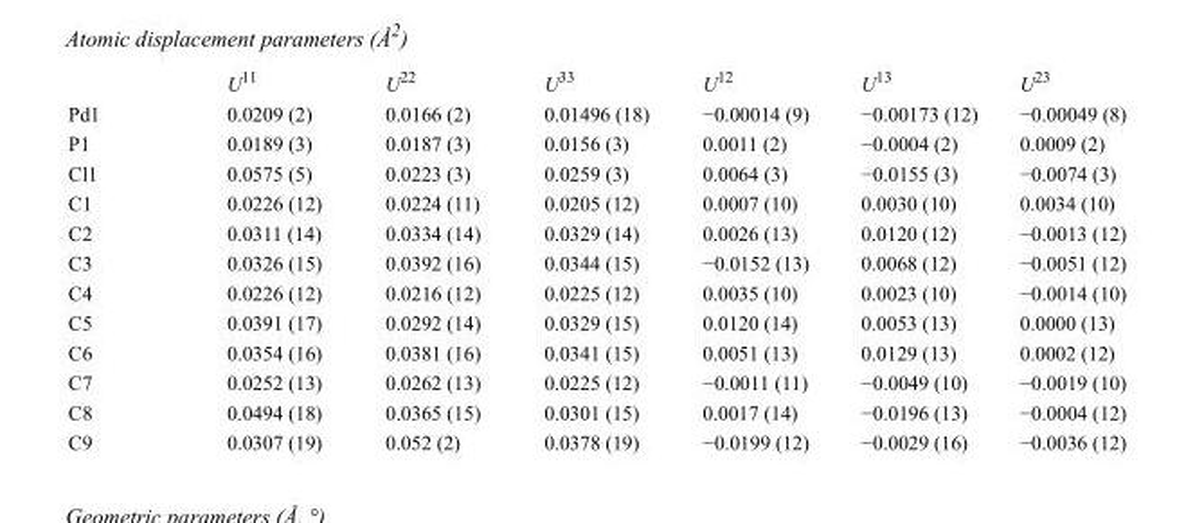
<table><thead><tr><td></td><td>U<sup>11</sup></td><td>U<sup>22</sup></td><td>U<sup>33</sup></td><td>U<sup>12</sup></td><td>U<sup>13</sup></td><td>U<sup>23</sup></td></tr></thead><tbody><tr><td>Pd1</td><td>0.0209 (2)</td><td>0.0166 (2)</td><td>0.01496 (18)</td><td>−0.00014 (9)</td><td>−0.00173 (12)</td><td>−0.00049 (8)</td></tr><tr><td>P1</td><td>0.0189 (3)</td><td>0.0187 (3)</td><td>0.0156 (3)</td><td>0.0011 (2)</td><td>−0.0004 (2)</td><td>0.0009 (2)</td></tr><tr><td>Cl1</td><td>0.0575 (5)</td><td>0.0223 (3)</td><td>0.0259 (3)</td><td>0.0064 (3)</td><td>−0.0155 (3)</td><td>−0.0074 (3)</td></tr><tr><td>C1</td><td>0.0226 (12)</td><td>0.0224 (11)</td><td>0.0205 (12)</td><td>0.0007 (10)</td><td>0.0030 (10)</td><td>0.0034 (10)</td></tr><tr><td>C2</td><td>0.0311 (14)</td><td>0.0334 (14)</td><td>0.0329 (14)</td><td>0.0026 (13)</td><td>0.0120 (12)</td><td>−0.0013 (12)</td></tr><tr><td>C3</td><td>0.0326 (15)</td><td>0.0392 (16)</td><td>0.0344 (15)</td><td>−0.0152 (13)</td><td>0.0068 (12)</td><td>−0.0051 (12)</td></tr><tr><td>C4</td><td>0.0226 (12)</td><td>0.0216 (12)</td><td>0.0225 (12)</td><td>0.0035 (10)</td><td>0.0023 (10)</td><td>−0.0014 (10)</td></tr><tr><td>C5</td><td>0.0391 (17)</td><td>0.0292 (14)</td><td>0.0329 (15)</td><td>0.0120 (14)</td><td>0.0053 (13)</td><td>0.0000 (13)</td></tr><tr><td>C6</td><td>0.0354 (16)</td><td>0.0381 (16)</td><td>0.0341 (15)</td><td>0.0051 (13)</td><td>0.0129 (13)</td><td>0.0002 (12)</td></tr><tr><td>C7</td><td>0.0252 (13)</td><td>0.0262 (13)</td><td>0.0225 (12)</td><td>−0.0011 (11)</td><td>−0.0049 (10)</td><td>−0.0019 (10)</td></tr><tr><td>C8</td><td>0.0494 (18)</td><td>0.0365 (15)</td><td>0.0301 (15)</td><td>0.0017 (14)</td><td>−0.0196 (13)</td><td>−0.0004 (12)</td></tr><tr><td>C9</td><td>0.0307 (19)</td><td>0.052 (2)</td><td>0.0378 (19)</td><td>−0.0199 (12)</td><td>−0.0029 (16)</td><td>−0.0036 (12)</td></tr></tbody></table>